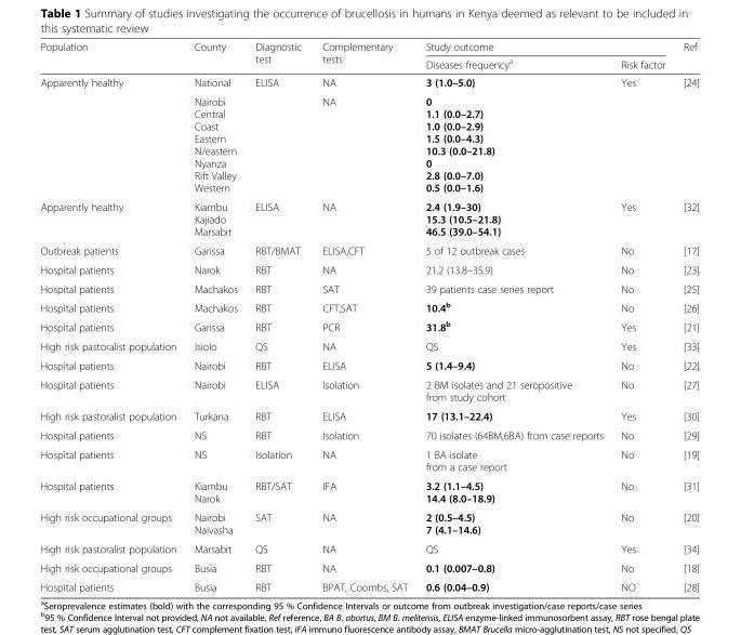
<table><thead><tr><td rowspan="2">Population</td><td rowspan="2">County</td><td rowspan="2">Diagnostic test</td><td rowspan="2">Complementary tests</td><td colspan="2">Study outcome</td><td rowspan="2">Ref</td></tr><tr><td>Diseases frequency<sup>a</sup></td><td>Risk factor</td></tr></thead><tbody><tr><td rowspan="2">Apparently healthy</td><td>National</td><td rowspan="2">ELISA</td><td>NA</td><td>3 (1.0–5.0)</td><td rowspan="2">Yes</td><td rowspan="2">[24]</td></tr><tr><td>Nairobi Central Coast Eastern N/eastern Nyanza Rift Valley Western</td><td>NA</td><td>0 1.1 (0.0–2.7) 1.0 (0.0–2.9) 1.5 (0.0–4.3) 10.3 (0.0–21.8) 0 2.8 (0.0–7.0) 0.5 (0.0–1.6)</td></tr><tr><td>Apparently healthy</td><td>Kiambu Kajiado Marsabit</td><td>ELISA</td><td>NA</td><td>2.4 (1.9–30) 15.3 (10.5–21.8) 46.5 (39.0–54.1)</td><td>Yes</td><td>[32]</td></tr><tr><td>Outbreak patients</td><td>Garissa</td><td>RBT/BMAT</td><td>ELISA,CFT</td><td>5 of 12 outbreak cases</td><td>No</td><td>[17]</td></tr><tr><td>Hospital patients</td><td>Narok</td><td>RBT</td><td>NA</td><td>21.2 (13.8–35.9)</td><td>No</td><td>[23]</td></tr><tr><td>Hospital patients</td><td>Machakos</td><td>RBT</td><td>SAT</td><td>39 patients case series report</td><td>No</td><td>[25]</td></tr><tr><td>Hospital patients</td><td>Machakos</td><td>RBT</td><td>CFT,SAT</td><td>10.4<sup>b</sup></td><td>No</td><td>[26]</td></tr><tr><td>Hospital patients</td><td>Garissa</td><td>RBT</td><td>PCR</td><td>31.8<sup>b</sup></td><td>Yes</td><td>[21]</td></tr><tr><td>High risk pastoralist population</td><td>Isiolo</td><td>QS</td><td>NA</td><td>QS</td><td>Yes</td><td>[33]</td></tr><tr><td>Hospital patients</td><td>Nairobi</td><td>RBT</td><td>ELISA</td><td>5 (1.4–9.4)</td><td>No</td><td>[22]</td></tr><tr><td>Hospital patients</td><td>Nairobi</td><td>ELISA</td><td>Isolation</td><td>2 BM isolates and 21 seropositive from study cohort</td><td>No</td><td>[27]</td></tr><tr><td>High risk pastoralist population</td><td>Turkana</td><td>RBT</td><td>ELISA</td><td>17 (13.1–22.4)</td><td>Yes</td><td>[30]</td></tr><tr><td>Hospital patients</td><td>NS</td><td>RBT</td><td>Isolation</td><td>70 isolates (64BM,6BA) from case reports</td><td>No</td><td>[29]</td></tr><tr><td>Hospital patients</td><td>NS</td><td>Isolation</td><td>NA</td><td>1 BA isolate from a case report</td><td>No</td><td>[19]</td></tr><tr><td>Hospital patients</td><td>Kiambu Narok</td><td>RBT/SAT</td><td>IFA</td><td>3.2 (1.1–4.5) 14.4 (8.0–18.9)</td><td>No</td><td>[31]</td></tr><tr><td>High risk occupational groups</td><td>Nairobi Naivasha</td><td>SAT</td><td>NA</td><td>2 (0.5–4.5) 7 (4.1–14.6)</td><td>No</td><td>[20]</td></tr><tr><td>High risk pastoralist population</td><td>Marsabit</td><td>QS</td><td>NA</td><td>QS</td><td>Yes</td><td>[34]</td></tr><tr><td>High risk occupational groups</td><td>Busia</td><td>RBT</td><td>NA</td><td>0.1 (0.007–0.8)</td><td>No</td><td>[18]</td></tr><tr><td>Hospital patients</td><td>Busia</td><td>RBT</td><td>BPAT, Coombs, SAT</td><td>0.6 (0.04–0.9)</td><td>NO</td><td>[28]</td></tr></tbody></table>